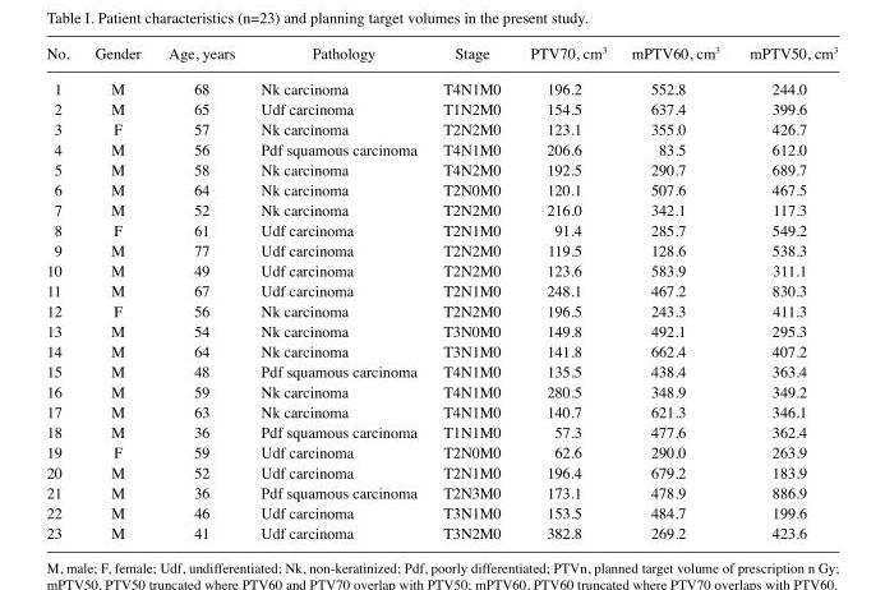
<table><thead><tr><td>No.</td><td>Gender</td><td>Age, years</td><td>Pathology</td><td>Stage</td><td>PTV70, cm<sup>3</sup></td><td>mPTV60, cm<sup>3</sup></td><td>mPTV50, cm<sup>3</sup></td></tr></thead><tbody><tr><td>1</td><td>M</td><td>68</td><td>Nk carcinoma</td><td>T4N1M0</td><td>196.2</td><td>552.8</td><td>244.0</td></tr><tr><td>2</td><td>M</td><td>65</td><td>Udf carcinoma</td><td>T1N2M0</td><td>154.5</td><td>637.4</td><td>399.6</td></tr><tr><td>3</td><td>F</td><td>57</td><td>Nk carcinoma</td><td>T2N2M0</td><td>123.1</td><td>355.0</td><td>426.7</td></tr><tr><td>4</td><td>M</td><td>56</td><td>Pdf squamous carcinoma</td><td>T4N1M0</td><td>206.6</td><td>83.5</td><td>612.0</td></tr><tr><td>5</td><td>M</td><td>58</td><td>Nk carcinoma</td><td>T4N2M0</td><td>192.5</td><td>290.7</td><td>689.7</td></tr><tr><td>6</td><td>M</td><td>64</td><td>Nk carcinoma</td><td>T2N0M0</td><td>120.1</td><td>507.6</td><td>467.5</td></tr><tr><td>7</td><td>M</td><td>52</td><td>Nk carcinoma</td><td>T2N2M0</td><td>216.0</td><td>342.1</td><td>117.3</td></tr><tr><td>8</td><td>F</td><td>61</td><td>Udf carcinoma</td><td>T2N1M0</td><td>91.4</td><td>285.7</td><td>549.2</td></tr><tr><td>9</td><td>M</td><td>77</td><td>Udf carcinoma</td><td>T2N2M0</td><td>119.5</td><td>128.6</td><td>538.3</td></tr><tr><td>10</td><td>M</td><td>49</td><td>Udf carcinoma</td><td>T2N2M0</td><td>123.6</td><td>583.9</td><td>311.1</td></tr><tr><td>11</td><td>M</td><td>67</td><td>Udf carcinoma</td><td>T2N1M0</td><td>248.1</td><td>467.2</td><td>830.3</td></tr><tr><td>12</td><td>F</td><td>56</td><td>Nk carcinoma</td><td>T2N2M0</td><td>196.5</td><td>243.3</td><td>411.3</td></tr><tr><td>13</td><td>M</td><td>54</td><td>Nk carcinoma</td><td>T3N0M0</td><td>149.8</td><td>492.1</td><td>295.3</td></tr><tr><td>14</td><td>M</td><td>64</td><td>Nk carcinoma</td><td>T3N1M0</td><td>141.8</td><td>662.4</td><td>407.2</td></tr><tr><td>15</td><td>M</td><td>48</td><td>Pdf squamous carcinoma</td><td>T4N1M0</td><td>135.5</td><td>438.4</td><td>363.4</td></tr><tr><td>16</td><td>M</td><td>59</td><td>Nk carcinoma</td><td>T4N1M0</td><td>280.5</td><td>348.9</td><td>349.2</td></tr><tr><td>17</td><td>M</td><td>63</td><td>Nk carcinoma</td><td>T4N1M0</td><td>140.7</td><td>621.3</td><td>346.1</td></tr><tr><td>18</td><td>M</td><td>36</td><td>Pdf squamous carcinoma</td><td>T1N1M0</td><td>57.3</td><td>477.6</td><td>362.4</td></tr><tr><td>19</td><td>F</td><td>59</td><td>Udf carcinoma</td><td>T2N0M0</td><td>62.6</td><td>290.0</td><td>263.9</td></tr><tr><td>20</td><td>M</td><td>52</td><td>Udf carcinoma</td><td>T2N1M0</td><td>196.4</td><td>679.2</td><td>183.9</td></tr><tr><td>21</td><td>M</td><td>36</td><td>Pdf squamous carcinoma</td><td>T2N3M0</td><td>173.1</td><td>478.9</td><td>886.9</td></tr><tr><td>22</td><td>M</td><td>46</td><td>Udf carcinoma</td><td>T3N1M0</td><td>153.5</td><td>484.7</td><td>199.6</td></tr><tr><td>23</td><td>M</td><td>41</td><td>Udf carcinoma</td><td>T3N2M0</td><td>382.8</td><td>269.2</td><td>423.6</td></tr></tbody></table>